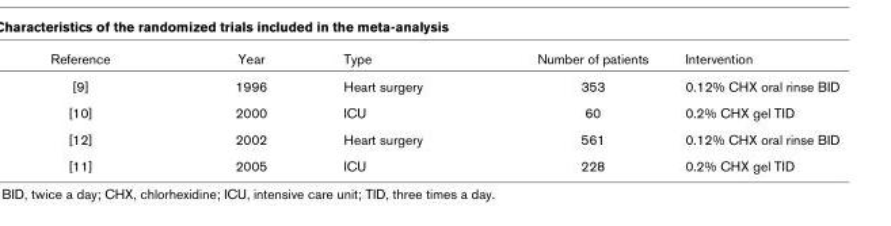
<table><thead><tr><td>Reference</td><td>Year</td><td>Type</td><td>Number of patients</td><td>Intervention</td></tr></thead><tbody><tr><td>[9]</td><td>1996</td><td>Heart surgery</td><td>353</td><td>0.12% CHX oral rinse BID</td></tr><tr><td>[10]</td><td>2000</td><td>ICU</td><td>60</td><td>0.2% CHX gel TID</td></tr><tr><td>[12]</td><td>2002</td><td>Heart surgery</td><td>561</td><td>0.12% CHX oral rinse BID</td></tr><tr><td>[11]</td><td>2005</td><td>ICU</td><td>228</td><td>0.2% CHX gel TID</td></tr></tbody></table>